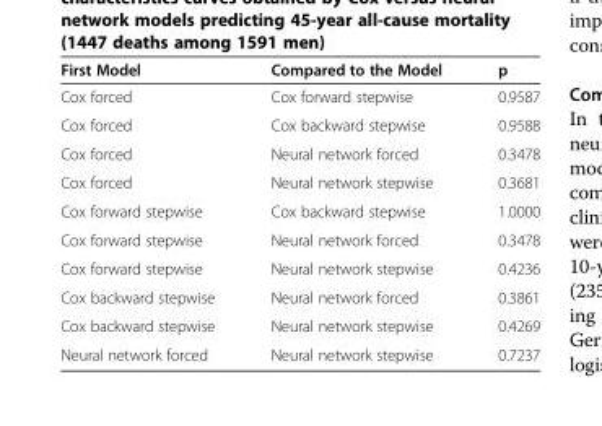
<table><thead><tr><td>First Model</td><td>Compared to the Model</td><td>p</td></tr></thead><tbody><tr><td>Cox forced</td><td>Cox forward stepwise</td><td>0.9587</td></tr><tr><td>Cox forced</td><td>Cox backward stepwise</td><td>0.9588</td></tr><tr><td>Cox forced</td><td>Neural network forced</td><td>0.3478</td></tr><tr><td>Cox forced</td><td>Neural network stepwise</td><td>0.3681</td></tr><tr><td>Cox forward stepwise</td><td>Cox backward stepwise</td><td>1.0000</td></tr><tr><td>Cox forward stepwise</td><td>Neural network forced</td><td>0.3478</td></tr><tr><td>Cox forward stepwise</td><td>Neural network stepwise</td><td>0.4236</td></tr><tr><td>Cox backward stepwise</td><td>Neural network forced</td><td>0.3861</td></tr><tr><td>Cox backward stepwise</td><td>Neural network stepwise</td><td>0.4269</td></tr><tr><td>Neural network forced</td><td>Neural network stepwise</td><td>0.7237</td></tr></tbody></table>